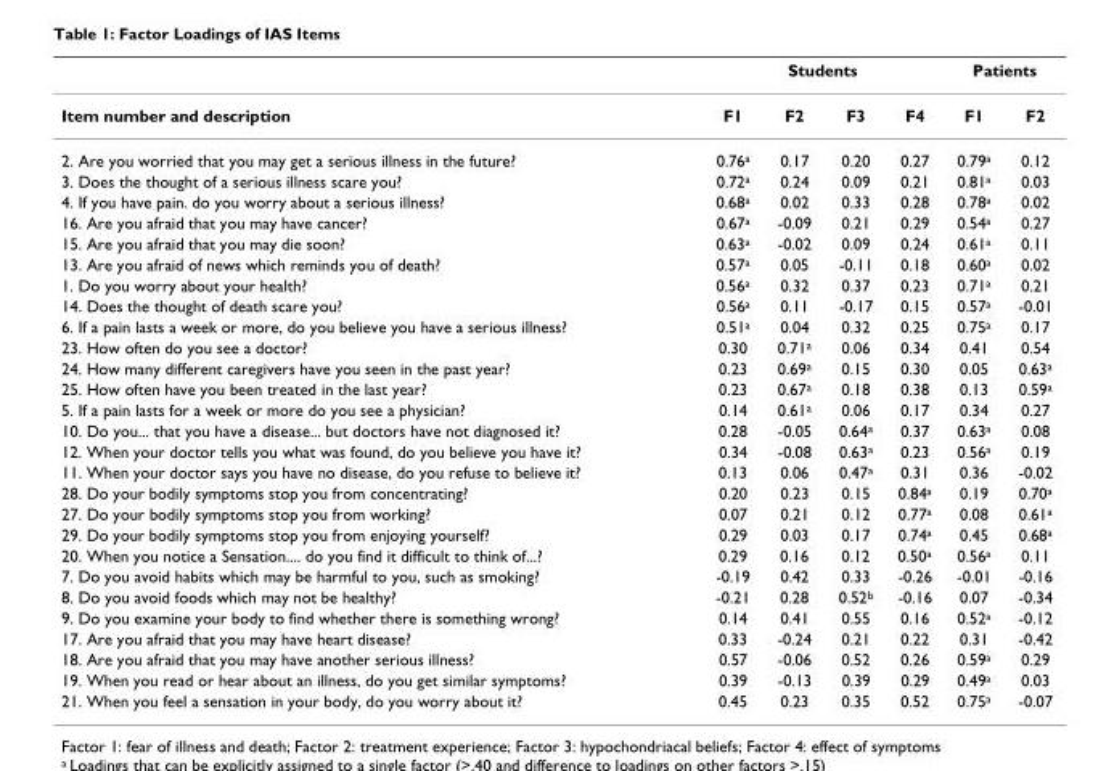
<table><thead><tr><td rowspan="2">Item number and description</td><td colspan="4">Students</td><td colspan="2">Patients</td></tr><tr><td>F1</td><td>F2</td><td>F3</td><td>F4</td><td>F1</td><td>F2</td></tr></thead><tbody><tr><td>2. Are you worried that you may get a serious illness in the future?</td><td>0.76<sup>a</sup></td><td>0.17</td><td>0.20</td><td>0.27</td><td>0.79<sup>a</sup></td><td>0.12</td></tr><tr><td>3. Does the thought of a serious illness scare you?</td><td>0.72<sup>a</sup></td><td>0.24</td><td>0.09</td><td>0.21</td><td>0.81<sup>a</sup></td><td>0.03</td></tr><tr><td>4. If you have pain. do you worry about a serious illness?</td><td>0.68<sup>a</sup></td><td>0.02</td><td>0.33</td><td>0.28</td><td>0.78<sup>a</sup></td><td>0.02</td></tr><tr><td>16. Are you afraid that you may have cancer?</td><td>0.67<sup>a</sup></td><td>-0.09</td><td>0.21</td><td>0.29</td><td>0.54<sup>a</sup></td><td>0.27</td></tr><tr><td>15. Are you afraid that you may die soon?</td><td>0.63<sup>a</sup></td><td>-0.02</td><td>0.09</td><td>0.24</td><td>0.61<sup>a</sup></td><td>0.11</td></tr><tr><td>13. Are you afraid of news which reminds you of death?</td><td>0.57<sup>a</sup></td><td>0.05</td><td>-0.11</td><td>0.18</td><td>0.60<sup>a</sup></td><td>0.02</td></tr><tr><td>1. Do you worry about your health?</td><td>0.56<sup>a</sup></td><td>0.32</td><td>0.37</td><td>0.23</td><td>0.71<sup>a</sup></td><td>0.21</td></tr><tr><td>14. Does the thought of death scare you?</td><td>0.56<sup>a</sup></td><td>0.11</td><td>-0.17</td><td>0.15</td><td>0.57<sup>a</sup></td><td>-0.01</td></tr><tr><td>6. If a pain lasts a week or more, do you believe you have a serious illness?</td><td>0.51<sup>a</sup></td><td>0.04</td><td>0.32</td><td>0.25</td><td>0.75<sup>a</sup></td><td>0.17</td></tr><tr><td>23. How often do you see a doctor?</td><td>0.30</td><td>0.71<sup>a</sup></td><td>0.06</td><td>0.34</td><td>0.41</td><td>0.54</td></tr><tr><td>24. How many different caregivers have you seen in the past year?</td><td>0.23</td><td>0.69<sup>a</sup></td><td>0.15</td><td>0.30</td><td>0.05</td><td>0.63<sup>a</sup></td></tr><tr><td>25. How often have you been treated in the last year?</td><td>0.23</td><td>0.67<sup>a</sup></td><td>0.18</td><td>0.38</td><td>0.13</td><td>0.59<sup>a</sup></td></tr><tr><td>5. If a pain lasts for a week or more do you see a physician?</td><td>0.14</td><td>0.61<sup>a</sup></td><td>0.06</td><td>0.17</td><td>0.34</td><td>0.27</td></tr><tr><td>10. Do you... that you have a disease... but doctors have not diagnosed it?</td><td>0.28</td><td>-0.05</td><td>0.64<sup>a</sup></td><td>0.37</td><td>0.63<sup>a</sup></td><td>0.08</td></tr><tr><td>12. When your doctor tells you what was found, do you believe you have it?</td><td>0.34</td><td>-0.08</td><td>0.63<sup>a</sup></td><td>0.23</td><td>0.56<sup>a</sup></td><td>0.19</td></tr><tr><td>11. When your doctor says you have no disease, do you refuse to believe it?</td><td>0.13</td><td>0.06</td><td>0.47<sup>a</sup></td><td>0.31</td><td>0.36</td><td>-0.02</td></tr><tr><td>28. Do your bodily symptoms stop you from concentrating?</td><td>0.20</td><td>0.23</td><td>0.15</td><td>0.84<sup>a</sup></td><td>0.19</td><td>0.70<sup>a</sup></td></tr><tr><td>27. Do your bodily symptoms stop you from working?</td><td>0.07</td><td>0.21</td><td>0.12</td><td>0.77<sup>a</sup></td><td>0.08</td><td>0.61<sup>a</sup></td></tr><tr><td>29. Do your bodily symptoms stop you from enjoying yourself?</td><td>0.29</td><td>0.03</td><td>0.17</td><td>0.74<sup>a</sup></td><td>0.45</td><td>0.68<sup>a</sup></td></tr><tr><td>20. When you notice a Sensation.... do you find it difficult to think of...?</td><td>0.29</td><td>0.16</td><td>0.12</td><td>0.50<sup>a</sup></td><td>0.56<sup>a</sup></td><td>0.11</td></tr><tr><td>7. Do you avoid habits which may be harmful to you, such as smoking?</td><td>-0.19</td><td>0.42</td><td>0.33</td><td>-0.26</td><td>-0.01</td><td>-0.16</td></tr><tr><td>8. Do you avoid foods which may not be healthy?</td><td>-0.21</td><td>0.28</td><td>0.52<sup>b</sup></td><td>-0.16</td><td>0.07</td><td>-0.34</td></tr><tr><td>9. Do you examine your body to find whether there is something wrong?</td><td>0.14</td><td>0.41</td><td>0.55</td><td>0.16</td><td>0.52<sup>a</sup></td><td>-0.12</td></tr><tr><td>17. Are you afraid that you may have heart disease?</td><td>0.33</td><td>-0.24</td><td>0.21</td><td>0.22</td><td>0.31</td><td>-0.42</td></tr><tr><td>18. Are you afraid that you may have another serious illness?</td><td>0.57</td><td>-0.06</td><td>0.52</td><td>0.26</td><td>0.59<sup>a</sup></td><td>0.29</td></tr><tr><td>19. When you read or hear about an illness, do you get similar symptoms?</td><td>0.39</td><td>-0.13</td><td>0.39</td><td>0.29</td><td>0.49<sup>a</sup></td><td>0.03</td></tr><tr><td>21. When you feel a sensation in your body, do you worry about it?</td><td>0.45</td><td>0.23</td><td>0.35</td><td>0.52</td><td>0.75<sup>a</sup></td><td>-0.07</td></tr></tbody></table>